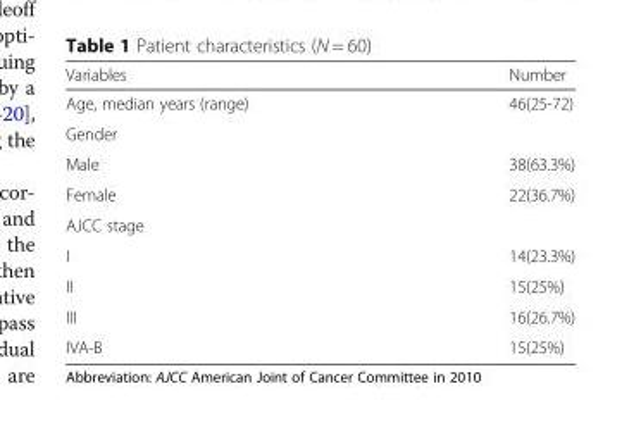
<table><thead><tr><td>Variables</td><td>Number</td></tr></thead><tbody><tr><td>Age, median years (range)</td><td>46(25-72)</td></tr><tr><td colspan="2">Gender</td></tr><tr><td>Male</td><td>38(63.3%)</td></tr><tr><td>Female</td><td>22(36.7%)</td></tr><tr><td colspan="2">AJCC stage</td></tr><tr><td>I</td><td>14(23.3%)</td></tr><tr><td>II</td><td>15(25%)</td></tr><tr><td>III</td><td>16(26.7%)</td></tr><tr><td>IVA-B</td><td>15(25%)</td></tr></tbody></table>